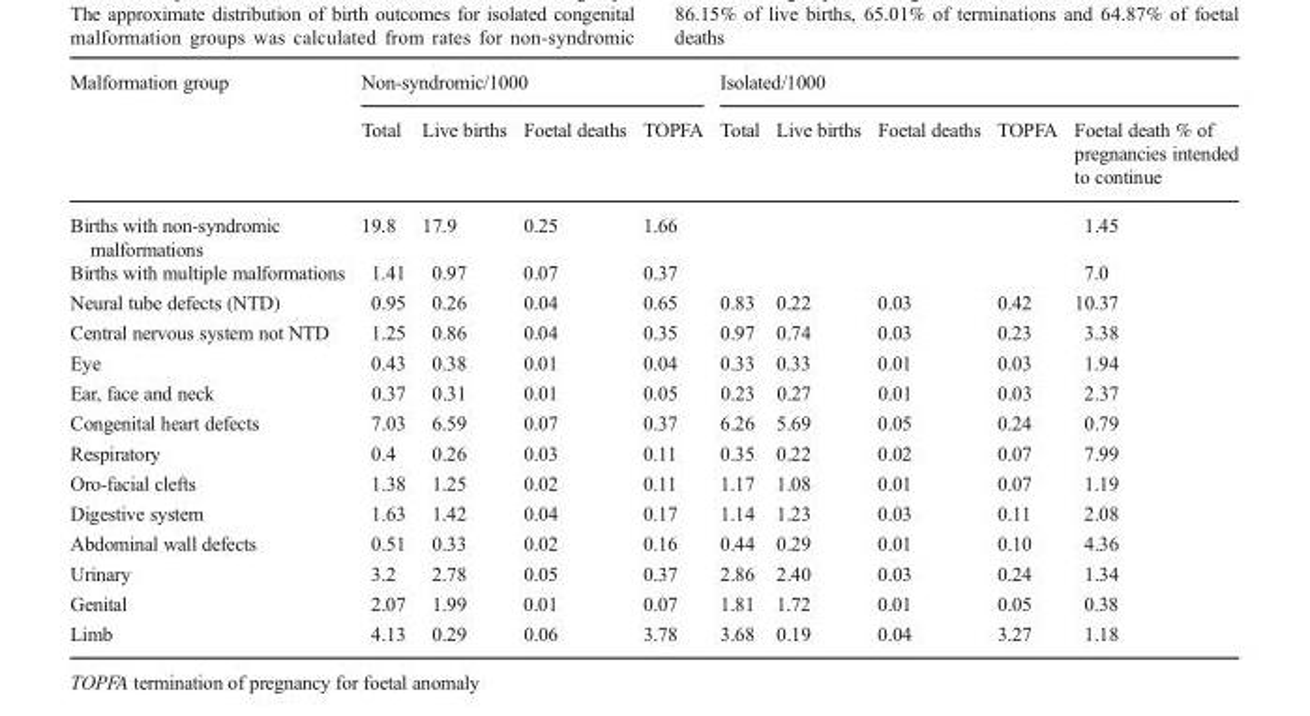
<table><thead><tr><td rowspan="2">Malformation group</td><td colspan="4">Non-syndromic/1000</td><td colspan="5">Isolated/1000</td></tr><tr><td>Total</td><td>Live births</td><td>Foetal deaths</td><td>TOPFA</td><td>Total</td><td>Live births</td><td>Foetal deaths</td><td>TOPFA</td><td>Foetal death % of pregnancies intended to continue</td></tr></thead><tbody><tr><td>Births with non-syndromic malformations</td><td>19.8</td><td>17.9</td><td>0.25</td><td>1.66</td><td></td><td></td><td></td><td></td><td>1.45</td></tr><tr><td>Births with multiple malformations</td><td>1.41</td><td>0.97</td><td>0.07</td><td>0.37</td><td></td><td></td><td></td><td></td><td>7.0</td></tr><tr><td>Neural tube defects (NTD)</td><td>0.95</td><td>0.26</td><td>0.04</td><td>0.65</td><td>0.83</td><td>0.22</td><td>0.03</td><td>0.42</td><td>10.37</td></tr><tr><td>Central nervous system not NTD</td><td>1.25</td><td>0.86</td><td>0.04</td><td>0.35</td><td>0.97</td><td>0.74</td><td>0.03</td><td>0.23</td><td>3.38</td></tr><tr><td>Eye</td><td>0.43</td><td>0.38</td><td>0.01</td><td>0.04</td><td>0.33</td><td>0.33</td><td>0.01</td><td>0.03</td><td>1.94</td></tr><tr><td>Ear, face and neck</td><td>0.37</td><td>0.31</td><td>0.01</td><td>0.05</td><td>0.23</td><td>0.27</td><td>0.01</td><td>0.03</td><td>2.37</td></tr><tr><td>Congenital heart defects</td><td>7.03</td><td>6.59</td><td>0.07</td><td>0.37</td><td>6.26</td><td>5.69</td><td>0.05</td><td>0.24</td><td>0.79</td></tr><tr><td>Respiratory</td><td>0.4</td><td>0.26</td><td>0.03</td><td>0.11</td><td>0.35</td><td>0.22</td><td>0.02</td><td>0.07</td><td>7.99</td></tr><tr><td>Oro-facial clefts</td><td>1.38</td><td>1.25</td><td>0.02</td><td>0.11</td><td>1.17</td><td>1.08</td><td>0.01</td><td>0.07</td><td>1.19</td></tr><tr><td>Digestive system</td><td>1.63</td><td>1.42</td><td>0.04</td><td>0.17</td><td>1.14</td><td>1.23</td><td>0.03</td><td>0.11</td><td>2.08</td></tr><tr><td>Abdominal wall defects</td><td>0.51</td><td>0.33</td><td>0.02</td><td>0.16</td><td>0.44</td><td>0.29</td><td>0.01</td><td>0.10</td><td>4.36</td></tr><tr><td>Urinary</td><td>3.2</td><td>2.78</td><td>0.05</td><td>0.37</td><td>2.86</td><td>2.40</td><td>0.03</td><td>0.24</td><td>1.34</td></tr><tr><td>Genital</td><td>2.07</td><td>1.99</td><td>0.01</td><td>0.07</td><td>1.81</td><td>1.72</td><td>0.01</td><td>0.05</td><td>0.38</td></tr><tr><td>Limb</td><td>4.13</td><td>0.29</td><td>0.06</td><td>3.78</td><td>3.68</td><td>0.19</td><td>0.04</td><td>3.27</td><td>1.18</td></tr></tbody></table>